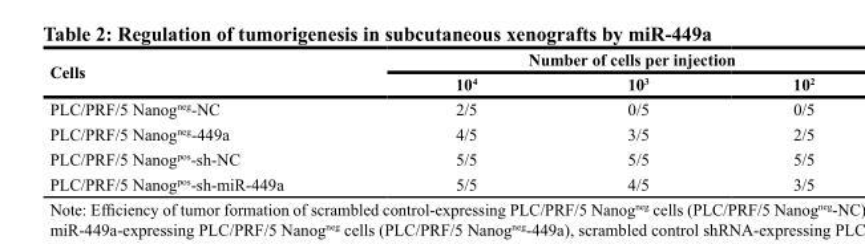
<table><thead><tr><td rowspan="2">Cells</td><td colspan="3">Number of cells per injection</td></tr><tr><td>10<sup>4</sup></td><td>10<sup>3</sup></td><td>10<sup>2</sup></td></tr></thead><tbody><tr><td>PLC/PRF/5 Nanog<sup>neg</sup>-NC</td><td>2/5</td><td>0/5</td><td>0/5</td></tr><tr><td>PLC/PRF/5 Nanog<sup>neg</sup>-449a</td><td>4/5</td><td>3/5</td><td>2/5</td></tr><tr><td>PLC/PRF/5 Nanog<sup>pos</sup>-sh-NC</td><td>5/5</td><td>5/5</td><td>5/5</td></tr><tr><td>PLC/PRF/5 Nanog<sup>pos</sup>-sh-miR-449a</td><td>5/5</td><td>4/5</td><td>3/5</td></tr></tbody></table>